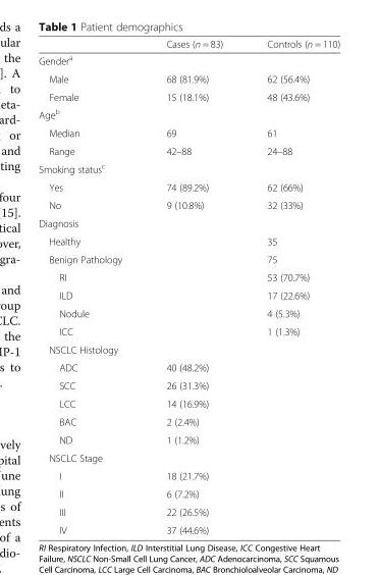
<table><thead><tr><td></td><td>Cases (n = 83)</td><td>Controls (n = 110)</td></tr></thead><tbody><tr><td colspan="3">Gender<sup>a</sup></td></tr><tr><td>Male</td><td>68 (81.9%)</td><td>62 (56.4%)</td></tr><tr><td>Female</td><td>15 (18.1%)</td><td>48 (43.6%)</td></tr><tr><td colspan="3">Age<sup>b</sup></td></tr><tr><td>Median</td><td>69</td><td>61</td></tr><tr><td>Range</td><td>42–88</td><td>24–88</td></tr><tr><td colspan="3">Smoking status<sup>c</sup></td></tr><tr><td>Yes</td><td>74 (89.2%)</td><td>62 (66%)</td></tr><tr><td>No</td><td>9 (10.8%)</td><td>32 (33%)</td></tr><tr><td colspan="3">Diagnosis</td></tr><tr><td>Healthy</td><td></td><td>35</td></tr><tr><td>Benign Pathology</td><td></td><td>75</td></tr><tr><td>RI</td><td></td><td>53 (70.7%)</td></tr><tr><td>ILD</td><td></td><td>17 (22.6%)</td></tr><tr><td>Nodule</td><td></td><td>4 (5.3%)</td></tr><tr><td>ICC</td><td></td><td>1 (1.3%)</td></tr><tr><td colspan="3">NSCLC Histology</td></tr><tr><td>ADC</td><td>40 (48.2%)</td><td></td></tr><tr><td>SCC</td><td>26 (31.3%)</td><td></td></tr><tr><td>LCC</td><td>14 (16.9%)</td><td></td></tr><tr><td>BAC</td><td>2 (2.4%)</td><td></td></tr><tr><td>ND</td><td>1 (1.2%)</td><td></td></tr><tr><td colspan="3">NSCLC Stage</td></tr><tr><td>I</td><td>18 (21.7%)</td><td></td></tr><tr><td>II</td><td>6 (7.2%)</td><td></td></tr><tr><td>III</td><td>22 (26.5%)</td><td></td></tr><tr><td>IV</td><td>37 (44.6%)</td><td></td></tr></tbody></table>